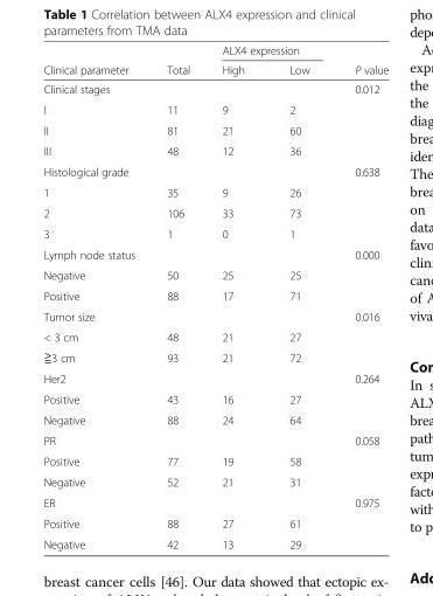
<table><thead><tr><td rowspan="2">Clinical parameter</td><td rowspan="2">Total</td><td colspan="2">ALX4 expression</td><td rowspan="2">P value</td></tr><tr><td>High</td><td>Low</td></tr></thead><tbody><tr><td>Clinical stages</td><td></td><td></td><td></td><td>0.012</td></tr><tr><td>I</td><td>11</td><td>9</td><td>2</td><td></td></tr><tr><td>II</td><td>81</td><td>21</td><td>60</td><td></td></tr><tr><td>III</td><td>48</td><td>12</td><td>36</td><td></td></tr><tr><td>Histological grade</td><td></td><td></td><td></td><td>0.638</td></tr><tr><td>1</td><td>35</td><td>9</td><td>26</td><td></td></tr><tr><td>2</td><td>106</td><td>33</td><td>73</td><td></td></tr><tr><td>3</td><td>1</td><td>0</td><td>1</td><td></td></tr><tr><td>Lymph node status</td><td></td><td></td><td></td><td>0.000</td></tr><tr><td>Negative</td><td>50</td><td>25</td><td>25</td><td></td></tr><tr><td>Positive</td><td>88</td><td>17</td><td>71</td><td></td></tr><tr><td>Tumor size</td><td></td><td></td><td></td><td>0.016</td></tr><tr><td>&lt; 3 cm</td><td>48</td><td>21</td><td>27</td><td></td></tr><tr><td>≧3 cm</td><td>93</td><td>21</td><td>72</td><td></td></tr><tr><td>Her2</td><td></td><td></td><td></td><td>0.264</td></tr><tr><td>Positive</td><td>43</td><td>16</td><td>27</td><td></td></tr><tr><td>Negative</td><td>88</td><td>24</td><td>64</td><td></td></tr><tr><td>PR</td><td></td><td></td><td></td><td>0.058</td></tr><tr><td>Positive</td><td>77</td><td>19</td><td>58</td><td></td></tr><tr><td>Negative</td><td>52</td><td>21</td><td>31</td><td></td></tr><tr><td>ER</td><td></td><td></td><td></td><td>0.975</td></tr><tr><td>Positive</td><td>88</td><td>27</td><td>61</td><td></td></tr><tr><td>Negative</td><td>42</td><td>13</td><td>29</td><td></td></tr></tbody></table>